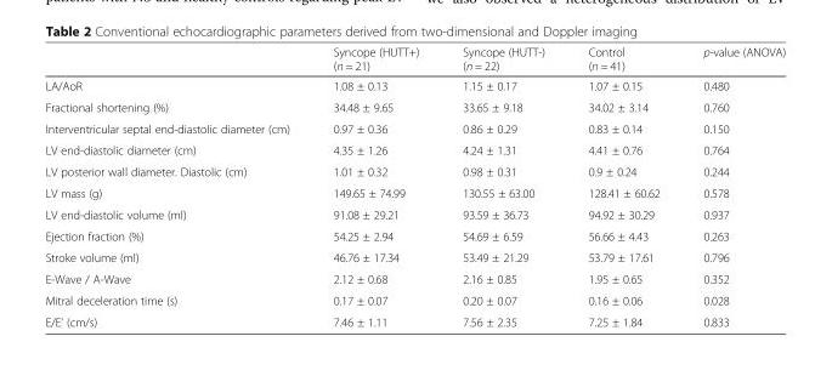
<table><thead><tr><td></td><td>Syncope (HUTT+) (n = 21)</td><td>Syncope (HUTT-) (n = 22)</td><td>Control (n = 41)</td><td>p-value (ANOVA)</td></tr></thead><tbody><tr><td>LA/AoR</td><td>1.08 ± 0.13</td><td>1.15 ± 0.17</td><td>1.07 ± 0.15</td><td>0.480</td></tr><tr><td>Fractional shortening (%)</td><td>34.48 ± 9.65</td><td>33.65 ± 9.18</td><td>34.02 ± 3.14</td><td>0.760</td></tr><tr><td>Interventricular septal end-diastolic diameter (cm)</td><td>0.97 ± 0.36</td><td>0.86 ± 0.29</td><td>0.83 ± 0.14</td><td>0.150</td></tr><tr><td>LV end-diastolic diameter (cm)</td><td>4.35 ± 1.26</td><td>4.24 ± 1.31</td><td>4.41 ± 0.76</td><td>0.764</td></tr><tr><td>LV posterior wall diameter. Diastolic (cm)</td><td>1.01 ± 0.32</td><td>0.98 ± 0.31</td><td>0.9 ± 0.24</td><td>0.244</td></tr><tr><td>LV mass (g)</td><td>149.65 ± 74.99</td><td>130.55 ± 63.00</td><td>128.41 ± 60.62</td><td>0.578</td></tr><tr><td>LV end-diastolic volume (ml)</td><td>91.08 ± 29.21</td><td>93.59 ± 36.73</td><td>94.92 ± 30.29</td><td>0.937</td></tr><tr><td>Ejection fraction (%)</td><td>54.25 ± 2.94</td><td>54.69 ± 6.59</td><td>56.66 ± 4.43</td><td>0.263</td></tr><tr><td>Stroke volume (ml)</td><td>46.76 ± 17.34</td><td>53.49 ± 21.29</td><td>53.79 ± 17.61</td><td>0.796</td></tr><tr><td>E-Wave / A-Wave</td><td>2.12 ± 0.68</td><td>2.16 ± 0.85</td><td>1.95 ± 0.65</td><td>0.352</td></tr><tr><td>Mitral deceleration time (s)</td><td>0.17 ± 0.07</td><td>0.20 ± 0.07</td><td>0.16 ± 0.06</td><td>0.028</td></tr><tr><td>E/E’ (cm/s)</td><td>7.46 ± 1.11</td><td>7.56 ± 2.35</td><td>7.25 ± 1.84</td><td>0.833</td></tr></tbody></table>